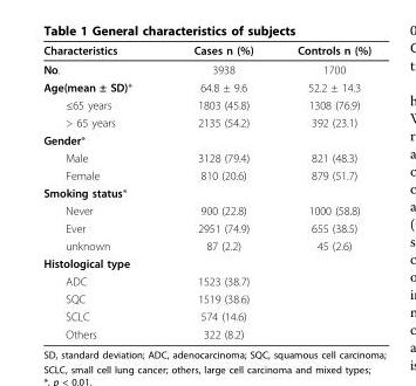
<table><thead><tr><td>Characteristics</td><td>Cases n (%)</td><td>Controls n (%)</td></tr></thead><tbody><tr><td>No.</td><td>3938</td><td>1700</td></tr><tr><td>Age(mean ± SD)*</td><td>64.8 ± 9.6</td><td>52.2 ± 14.3</td></tr><tr><td>≤65 years</td><td>1803 (45.8)</td><td>1308 (76.9)</td></tr><tr><td>&gt; 65 years</td><td>2135 (54.2)</td><td>392 (23.1)</td></tr><tr><td colspan="3">Gender*</td></tr><tr><td>Male</td><td>3128 (79.4)</td><td>821 (48.3)</td></tr><tr><td>Female</td><td>810 (20.6)</td><td>879 (51.7)</td></tr><tr><td colspan="3">Smoking status*</td></tr><tr><td>Never</td><td>900 (22.8)</td><td>1000 (58.8)</td></tr><tr><td>Ever</td><td>2951 (74.9)</td><td>655 (38.5)</td></tr><tr><td>unknown</td><td>87 (2.2)</td><td>45 (2.6)</td></tr><tr><td colspan="3">Histological type</td></tr><tr><td>ADC</td><td>1523 (38.7)</td><td></td></tr><tr><td>SQC</td><td>1519 (38.6)</td><td></td></tr><tr><td>SCLC</td><td>574 (14.6)</td><td></td></tr><tr><td>Others</td><td>322 (8.2)</td><td></td></tr></tbody></table>